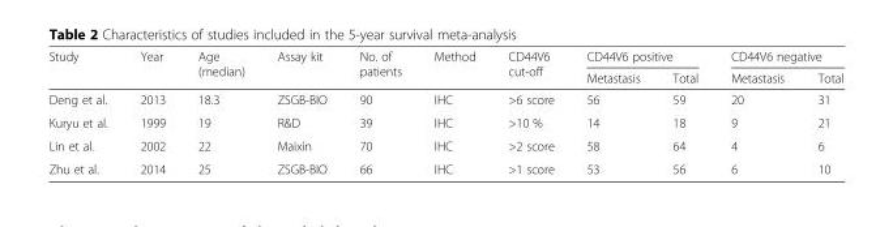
<table><thead><tr><td rowspan="2">Study</td><td rowspan="2">Year</td><td rowspan="2">Age (median)</td><td rowspan="2">Assay kit</td><td rowspan="2">No. of patients</td><td rowspan="2">Method</td><td rowspan="2">CD44V6 cut-off</td><td colspan="2">CD44V6 positive</td><td colspan="2">CD44V6 negative</td></tr><tr><td>Metastasis</td><td>Total</td><td>Metastasis</td><td>Total</td></tr></thead><tbody><tr><td>Deng et al.</td><td>2013</td><td>18.3</td><td>ZSGB-BIO</td><td>90</td><td>IHC</td><td>&gt;6 score</td><td>56</td><td>59</td><td>20</td><td>31</td></tr><tr><td>Kuryu et al.</td><td>1999</td><td>19</td><td>R&amp;D</td><td>39</td><td>IHC</td><td>&gt;10 %</td><td>14</td><td>18</td><td>9</td><td>21</td></tr><tr><td>Lin et al.</td><td>2002</td><td>22</td><td>Maixin</td><td>70</td><td>IHC</td><td>&gt;2 score</td><td>58</td><td>64</td><td>4</td><td>6</td></tr><tr><td>Zhu et al.</td><td>2014</td><td>25</td><td>ZSGB-BIO</td><td>66</td><td>IHC</td><td>&gt;1 score</td><td>53</td><td>56</td><td>6</td><td>10</td></tr></tbody></table>